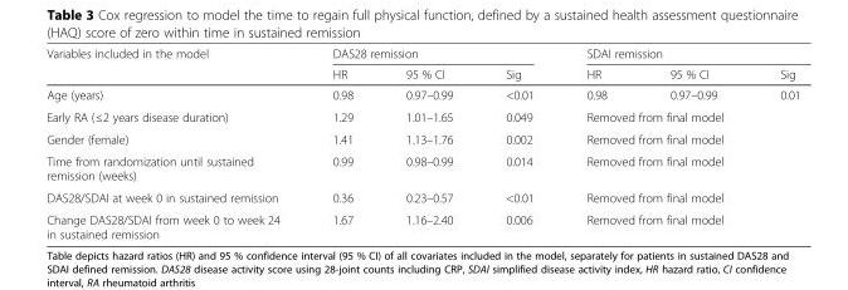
<table><thead><tr><td rowspan="2">Variables included in the model</td><td colspan="3">DAS28 remission</td><td colspan="3">SDAI remission</td></tr><tr><td>HR</td><td>95 % CI</td><td>Sig</td><td>HR</td><td>95 % CI</td><td>Sig</td></tr></thead><tbody><tr><td>Age (years)</td><td>0.98</td><td>0.97–0.99</td><td>&lt;0.01</td><td>0.98</td><td>0.97–0.99</td><td>0.01</td></tr><tr><td>Early RA (≤2 years disease duration)</td><td>1.29</td><td>1.01–1.65</td><td>0.049</td><td colspan="3">Removed from final model</td></tr><tr><td>Gender (female)</td><td>1.41</td><td>1.13–1.76</td><td>0.002</td><td colspan="3">Removed from final model</td></tr><tr><td>Time from randomization until sustained remission (weeks)</td><td>0.99</td><td>0.98–0.99</td><td>0.014</td><td colspan="3">Removed from final model</td></tr><tr><td>DAS28/SDAI at week 0 in sustained remission</td><td>0.36</td><td>0.23–0.57</td><td>&lt;0.01</td><td colspan="3">Removed from final model</td></tr><tr><td>Change DAS28/SDAI from week 0 to week 24 in sustained remission</td><td>1.67</td><td>1.16–2.40</td><td>0.006</td><td colspan="3">Removed from final model</td></tr></tbody></table>